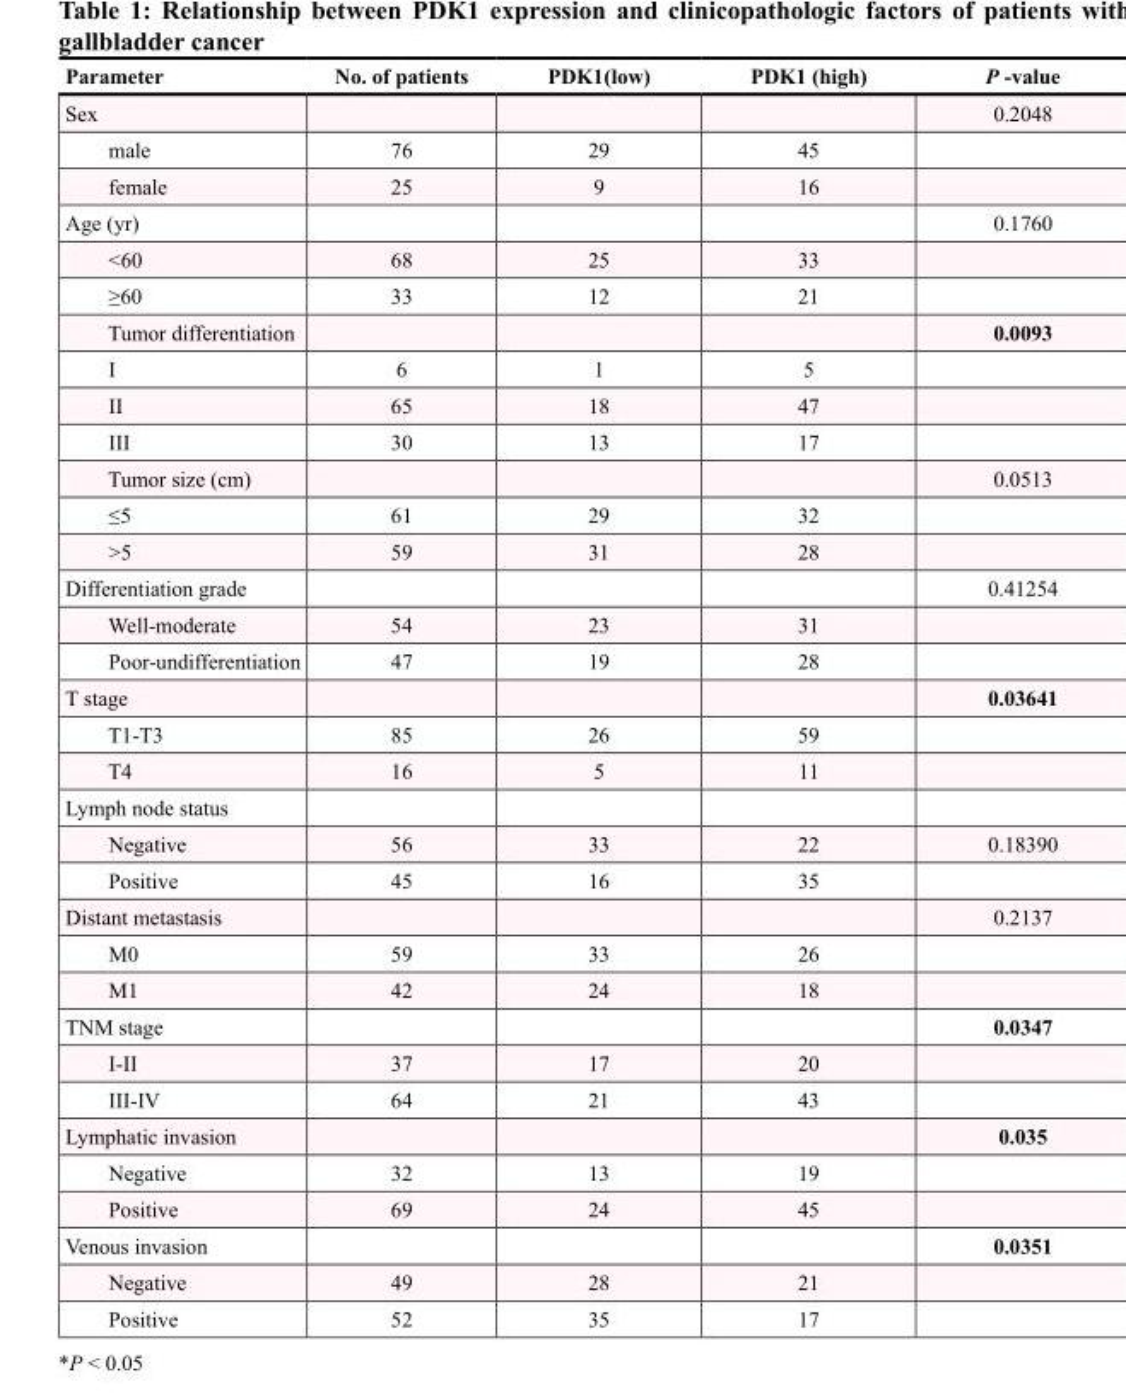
<table><thead><tr><td>Parameter</td><td>No. of patients</td><td>PDK1(low)</td><td>PDK1 (high)</td><td>P -value</td></tr></thead><tbody><tr><td>Sex</td><td></td><td></td><td></td><td>0.2048</td></tr><tr><td>male</td><td>76</td><td>29</td><td>45</td><td></td></tr><tr><td>female</td><td>25</td><td>9</td><td>16</td><td></td></tr><tr><td>Age (yr)</td><td></td><td></td><td></td><td>0.1760</td></tr><tr><td>&lt;60</td><td>68</td><td>25</td><td>33</td><td></td></tr><tr><td>≥60</td><td>33</td><td>12</td><td>21</td><td></td></tr><tr><td>Tumor differentiation</td><td></td><td></td><td></td><td>0.0093</td></tr><tr><td>I</td><td>6</td><td>1</td><td>5</td><td></td></tr><tr><td>II</td><td>65</td><td>18</td><td>47</td><td></td></tr><tr><td>III</td><td>30</td><td>13</td><td>17</td><td></td></tr><tr><td>Tumor size (cm)</td><td></td><td></td><td></td><td>0.0513</td></tr><tr><td>≤5</td><td>61</td><td>29</td><td>32</td><td></td></tr><tr><td>&gt;5</td><td>59</td><td>31</td><td>28</td><td></td></tr><tr><td>Differentiation grade</td><td></td><td></td><td></td><td>0.41254</td></tr><tr><td>Well-moderate</td><td>54</td><td>23</td><td>31</td><td></td></tr><tr><td>Poor-undifferentiation</td><td>47</td><td>19</td><td>28</td><td></td></tr><tr><td>T stage</td><td></td><td></td><td></td><td>0.03641</td></tr><tr><td>T1-T3</td><td>85</td><td>26</td><td>59</td><td></td></tr><tr><td>T4</td><td>16</td><td>5</td><td>11</td><td></td></tr><tr><td colspan="5">Lymph node status</td></tr><tr><td>Negative</td><td>56</td><td>33</td><td>22</td><td>0.18390</td></tr><tr><td>Positive</td><td>45</td><td>16</td><td>35</td><td></td></tr><tr><td>Distant metastasis</td><td></td><td></td><td></td><td>0.2137</td></tr><tr><td>M0</td><td>59</td><td>33</td><td>26</td><td></td></tr><tr><td>M1</td><td>42</td><td>24</td><td>18</td><td></td></tr><tr><td>TNM stage</td><td></td><td></td><td></td><td>0.0347</td></tr><tr><td>I-II</td><td>37</td><td>17</td><td>20</td><td></td></tr><tr><td>III-IV</td><td>64</td><td>21</td><td>43</td><td></td></tr><tr><td>Lymphatic invasion</td><td></td><td></td><td></td><td>0.035</td></tr><tr><td>Negative</td><td>32</td><td>13</td><td>19</td><td></td></tr><tr><td>Positive</td><td>69</td><td>24</td><td>45</td><td></td></tr><tr><td>Venous invasion</td><td></td><td></td><td></td><td>0.0351</td></tr><tr><td>Negative</td><td>49</td><td>28</td><td>21</td><td></td></tr><tr><td>Positive</td><td>52</td><td>35</td><td>17</td><td></td></tr></tbody></table>